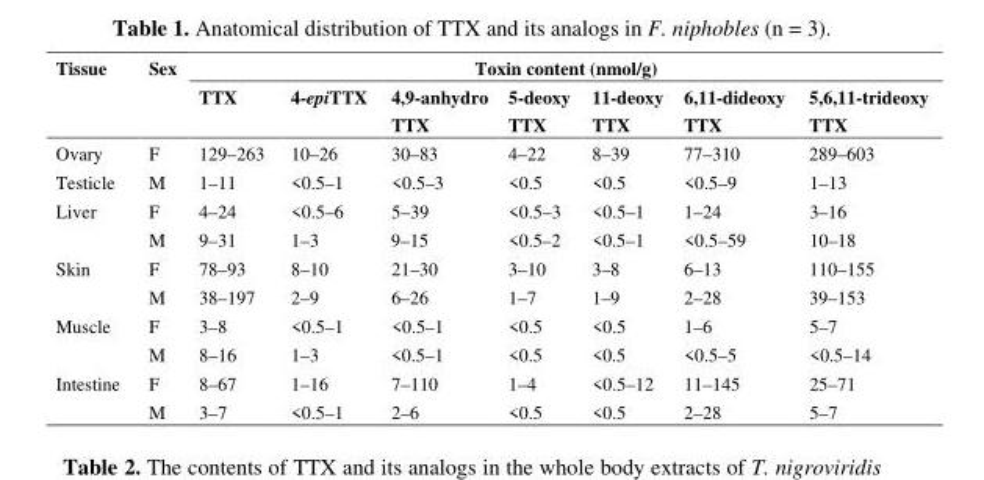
<table><thead><tr><td rowspan="2">Tissue</td><td rowspan="2">Sex</td><td colspan="7">Toxin content (nmol/g)</td></tr><tr><td>TTX</td><td>4-epiTTX</td><td>4,9-anhydro TTX</td><td>5-deoxy TTX</td><td>11-deoxy TTX</td><td>6,11-dideoxy TTX</td><td>5,6,11-trideoxy TTX</td></tr></thead><tbody><tr><td>Ovary</td><td>F</td><td>129–263</td><td>10–26</td><td>30–83</td><td>4–22</td><td>8–39</td><td>77–310</td><td>289–603</td></tr><tr><td>Testicle</td><td>M</td><td>1–11</td><td>&lt;0.5–1</td><td>&lt;0.5–3</td><td>&lt;0.5</td><td>&lt;0.5</td><td>&lt;0.5–9</td><td>1–13</td></tr><tr><td rowspan="2">Liver</td><td>F</td><td>4–24</td><td>&lt;0.5–6</td><td>5–39</td><td>&lt;0.5–3</td><td>&lt;0.5–1</td><td>1–24</td><td>3–16</td></tr><tr><td>M</td><td>9–31</td><td>1–3</td><td>9–15</td><td>&lt;0.5–2</td><td>&lt;0.5–1</td><td>&lt;0.5–59</td><td>10–18</td></tr><tr><td rowspan="2">Skin</td><td>F</td><td>78–93</td><td>8–10</td><td>21–30</td><td>3–10</td><td>3–8</td><td>6–13</td><td>110–155</td></tr><tr><td>M</td><td>38–197</td><td>2–9</td><td>6–26</td><td>1–7</td><td>1–9</td><td>2–28</td><td>39–153</td></tr><tr><td rowspan="2">Muscle</td><td>F</td><td>3–8</td><td>&lt;0.5–1</td><td>&lt;0.5–1</td><td>&lt;0.5</td><td>&lt;0.5</td><td>1–6</td><td>5–7</td></tr><tr><td>M</td><td>8–16</td><td>1–3</td><td>&lt;0.5–1</td><td>&lt;0.5</td><td>&lt;0.5</td><td>&lt;0.5–5</td><td>&lt;0.5–14</td></tr><tr><td rowspan="2">Intestine</td><td>F</td><td>8–67</td><td>1–16</td><td>7–110</td><td>1–4</td><td>&lt;0.5–12</td><td>11–145</td><td>25–71</td></tr><tr><td>M</td><td>3–7</td><td>&lt;0.5–1</td><td>2–6</td><td>&lt;0.5</td><td>&lt;0.5</td><td>2–28</td><td>5–7</td></tr></tbody></table>